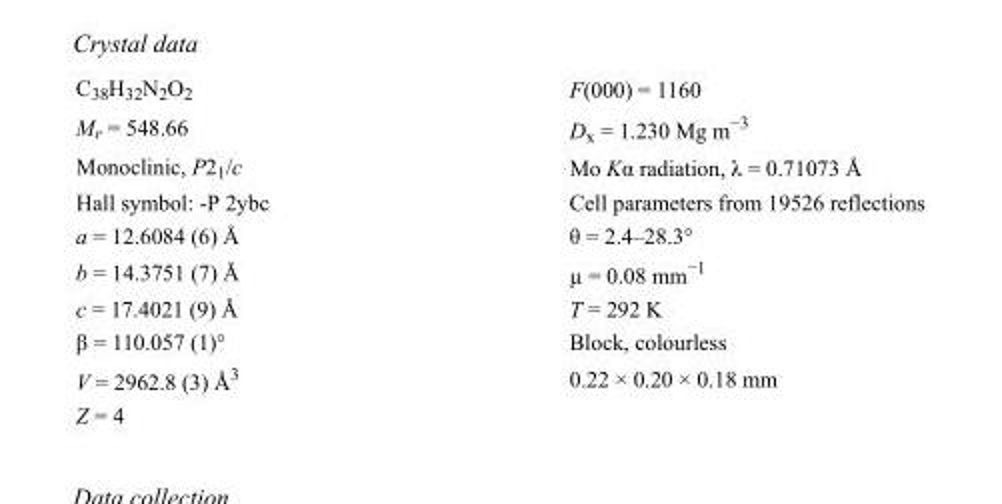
<table><tbody><tr><td>C<sub>38</sub>H<sub>32</sub>N<sub>2</sub>O<sub>2</sub></td><td>F(000) = 1160</td></tr><tr><td>M<sub>r</sub> = 548.66</td><td>D<sub>x</sub> = 1.230 Mg m<sup>−3</sup></td></tr><tr><td>Monoclinic, P2<sub>1</sub>/c</td><td>Mo Kα radiation, λ = 0.71073 Å</td></tr><tr><td>Hall symbol: -P 2ybc</td><td>Cell parameters from 19526 reflections</td></tr><tr><td>a = 12.6084 (6) Å</td><td>θ = 2.4–28.3°</td></tr><tr><td>b = 14.3751 (7) Å</td><td>µ = 0.08 mm<sup>−1</sup></td></tr><tr><td>c = 17.4021 (9) Å</td><td>T = 292 K</td></tr><tr><td>β = 110.057 (1)°</td><td>Block, colourless</td></tr><tr><td>V = 2962.8 (3) Å<sup>3</sup></td><td>0.22 × 0.20 × 0.18 mm</td></tr><tr><td>Z = 4</td><td></td></tr></tbody></table>